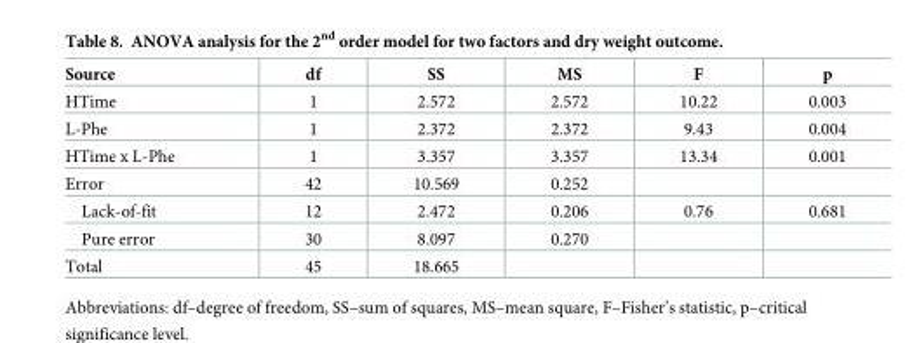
<table><thead><tr><td>Source</td><td>df</td><td>SS</td><td>MS</td><td>F</td><td>p</td></tr></thead><tbody><tr><td>HTime</td><td>1</td><td>2.572</td><td>2.572</td><td>10.22</td><td>0.003</td></tr><tr><td>L-Phe</td><td>1</td><td>2.372</td><td>2.372</td><td>9.43</td><td>0.004</td></tr><tr><td>HTime x L-Phe</td><td>1</td><td>3.357</td><td>3.357</td><td>13.34</td><td>0.001</td></tr><tr><td>Error</td><td>42</td><td>10.569</td><td>0.252</td><td></td><td></td></tr><tr><td>Lack-of-fit</td><td>12</td><td>2.472</td><td>0.206</td><td>0.76</td><td>0.681</td></tr><tr><td>Pure error</td><td>30</td><td>8.097</td><td>0.270</td><td></td><td></td></tr><tr><td>Total</td><td>45</td><td>18.665</td><td></td><td></td><td></td></tr></tbody></table>